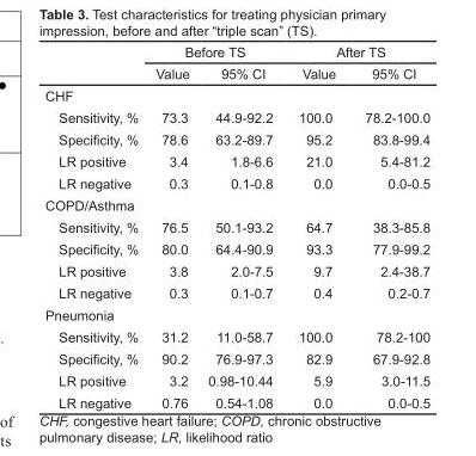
<table><thead><tr><td rowspan="2"></td><td colspan="2">Before TS</td><td colspan="2">After TS</td></tr><tr><td>Value</td><td>95% CI</td><td>Value</td><td>95% CI</td></tr></thead><tbody><tr><td colspan="5">CHF</td></tr><tr><td>Sensitivity, %</td><td>73.3</td><td>44.9-92.2</td><td>100.0</td><td>78.2-100.0</td></tr><tr><td>Specificity, %</td><td>78.6</td><td>63.2-89.7</td><td>95.2</td><td>83.8-99.4</td></tr><tr><td>LR positive</td><td>3.4</td><td>1.8-6.6</td><td>21.0</td><td>5.4-81.2</td></tr><tr><td>LR negative</td><td>0.3</td><td>0.1-0.8</td><td>0.0</td><td>0.0-0.5</td></tr><tr><td colspan="5">COPD/Asthma</td></tr><tr><td>Sensitivity, %</td><td>76.5</td><td>50.1-93.2</td><td>64.7</td><td>38.3-85.8</td></tr><tr><td>Specificity, %</td><td>80.0</td><td>64.4-90.9</td><td>93.3</td><td>77.9-99.2</td></tr><tr><td>LR positive</td><td>3.8</td><td>2.0-7.5</td><td>9.7</td><td>2.4-38.7</td></tr><tr><td>LR negative</td><td>0.3</td><td>0.1-0.7</td><td>0.4</td><td>0.2-0.7</td></tr><tr><td colspan="5">Pneumonia</td></tr><tr><td>Sensitivity, %</td><td>31.2</td><td>11.0-58.7</td><td>100.0</td><td>78.2-100</td></tr><tr><td>Specificity, %</td><td>90.2</td><td>76.9-97.3</td><td>82.9</td><td>67.9-92.8</td></tr><tr><td>LR positive</td><td>3.2</td><td>0.98-10.44</td><td>5.9</td><td>3.0-11.5</td></tr><tr><td>LR negative</td><td>0.76</td><td>0.54-1.08</td><td>0.0</td><td>0.0-0.5</td></tr></tbody></table>